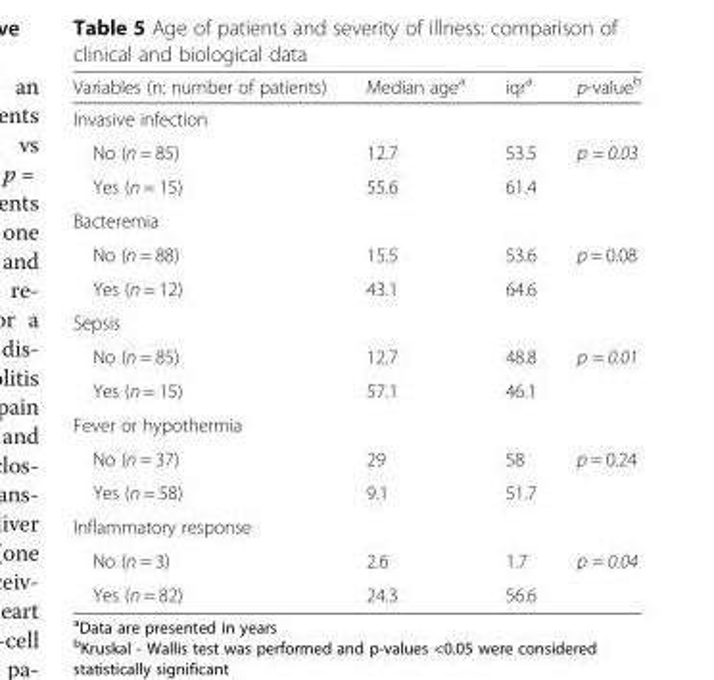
<table><thead><tr><td>Variables (n: number of patients)</td><td>Median age<sup>a</sup></td><td>iqr<sup>a</sup></td><td>p-value<sup>b</sup></td></tr></thead><tbody><tr><td colspan="4">Invasive infection</td></tr><tr><td>No (n = 85)</td><td>12.7</td><td>53.5</td><td rowspan="2">p = 0.03</td></tr><tr><td>Yes (n = 15)</td><td>55.6</td><td>61.4</td></tr><tr><td colspan="4">Bacteremia</td></tr><tr><td>No (n = 88)</td><td>15.5</td><td>53.6</td><td rowspan="2">p = 0.08</td></tr><tr><td>Yes (n = 12)</td><td>43.1</td><td>64.6</td></tr><tr><td colspan="4">Sepsis</td></tr><tr><td>No (n = 85)</td><td>12.7</td><td>48.8</td><td rowspan="2">p = 0.01</td></tr><tr><td>Yes (n = 15)</td><td>57.1</td><td>46.1</td></tr><tr><td colspan="4">Fever or hypothermia</td></tr><tr><td>No (n = 37)</td><td>29</td><td>58</td><td rowspan="2">p = 0.24</td></tr><tr><td>Yes (n = 58)</td><td>9.1</td><td>51.7</td></tr><tr><td colspan="4">Inflammatory response</td></tr><tr><td>No (n = 3)</td><td>2.6</td><td>1.7</td><td rowspan="2">p = 0.04</td></tr><tr><td>Yes (n = 82)</td><td>24.3</td><td>56.6</td></tr></tbody></table>